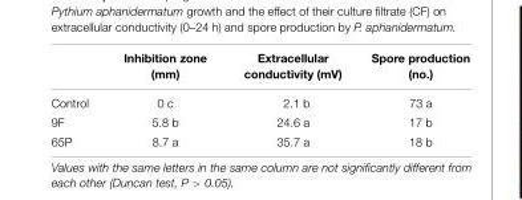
<table><thead><tr><td></td><td>Inhibition zone (mm)</td><td>Extracellular conductivity (mV)</td><td>Spore production (no.)</td></tr></thead><tbody><tr><td>Control</td><td>0 c</td><td>2.1 b</td><td>73 a</td></tr><tr><td>9F</td><td>5.8 b</td><td>24.6 a</td><td>17 b</td></tr><tr><td>65P</td><td>8.7 a</td><td>35.7 a</td><td>18 b</td></tr></tbody></table>